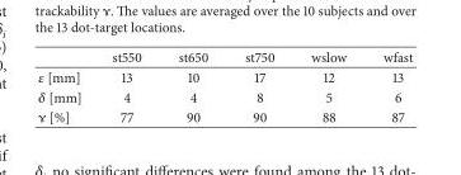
<table><thead><tr><td></td><td>st550</td><td>st650</td><td>st750</td><td>wslow</td><td>wfast</td></tr></thead><tbody><tr><td>[mm]</td><td>13</td><td>10</td><td>17</td><td>12</td><td>13</td></tr><tr><td>[mm]</td><td>4</td><td>4</td><td>8</td><td>5</td><td>6</td></tr><tr><td>[%]</td><td>77</td><td>90</td><td>90</td><td>88</td><td>87</td></tr></tbody></table>